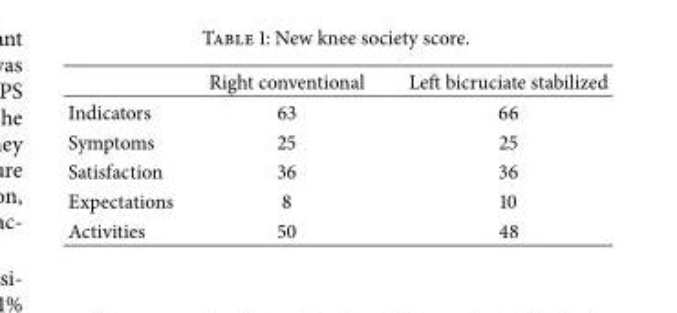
<table><thead><tr><td></td><td>Right conventional</td><td>Left bicruciate stabilized</td></tr></thead><tbody><tr><td>Indicators</td><td>63</td><td>66</td></tr><tr><td>Symptoms</td><td>25</td><td>25</td></tr><tr><td>Satisfaction</td><td>36</td><td>36</td></tr><tr><td>Expectations</td><td>8</td><td>10</td></tr><tr><td>Activities</td><td>50</td><td>48</td></tr></tbody></table>